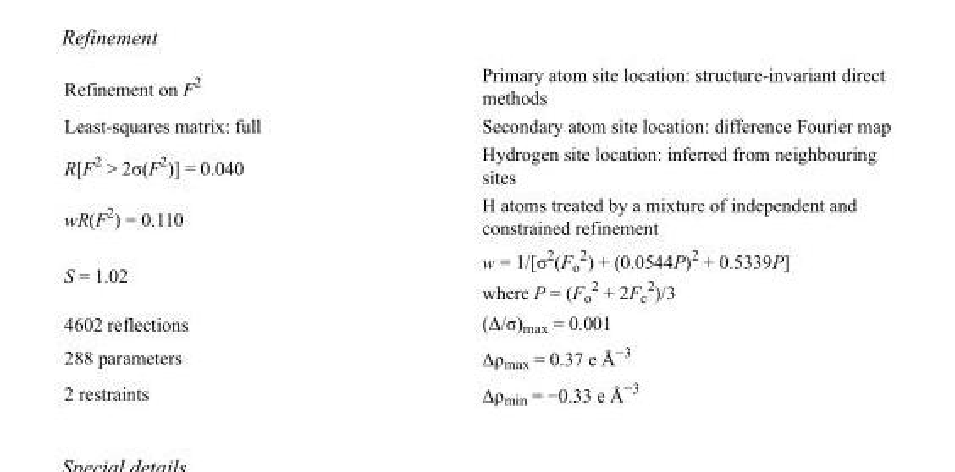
<table><tbody><tr><td>Refinement on F<sup>2</sup></td><td>Primary atom site location: structure-invariant direct methods</td></tr><tr><td>Least-squares matrix: full</td><td>Secondary atom site location: difference Fourier map</td></tr><tr><td>R[F<sup>2</sup> &gt; 2σ(F<sup>2</sup>)] = 0.040</td><td>Hydrogen site location: inferred from neighbouring sites</td></tr><tr><td>wR(F<sup>2</sup>) = 0.110</td><td>H atoms treated by a mixture of independent and constrained refinement</td></tr><tr><td>S = 1.02</td><td>w = 1/[σ<sup>2</sup>(F<sub>o</sub> <sup>2</sup>) + (0.0544P)<sup>2</sup> + 0.5339P] where P = (F<sub>o</sub> <sup>2</sup> + 2F<sub>c</sub> <sup>2</sup>)/3</td></tr><tr><td>4602 reflections</td><td>(Δ/σ)<sub>max</sub> = 0.001</td></tr><tr><td>288 parameters</td><td>Δρ<sub>max</sub> = 0.37 e Å<sup>−3</sup></td></tr><tr><td>2 restraints</td><td>Δρ<sub>min</sub> = −0.33 e Å<sup>−3</sup></td></tr></tbody></table>